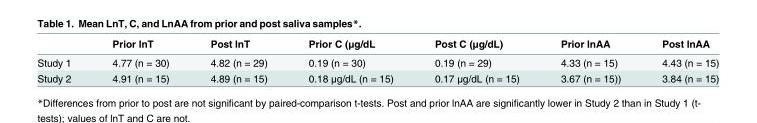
<table><thead><tr><td></td><td>Prior lnT</td><td>Post lnT</td><td>Prior C (μg/dL</td><td>Post C (μg/dL)</td><td>Prior lnAA</td><td>Post lnAA</td></tr></thead><tbody><tr><td>Study 1</td><td>4.77 (n = 30)</td><td>4.82 (n = 29)</td><td>0.19 (n = 30)</td><td>0.19 (n = 29)</td><td>4.33 (n = 15)</td><td>4.43 (n = 15)</td></tr><tr><td>Study 2</td><td>4.91 (n = 15)</td><td>4.89 (n = 15)</td><td>0.18 μg/dL (n = 15)</td><td>0.17 μg/dL (n = 15)</td><td>3.67 (n = 15))</td><td>3.84 (n = 15)</td></tr></tbody></table>